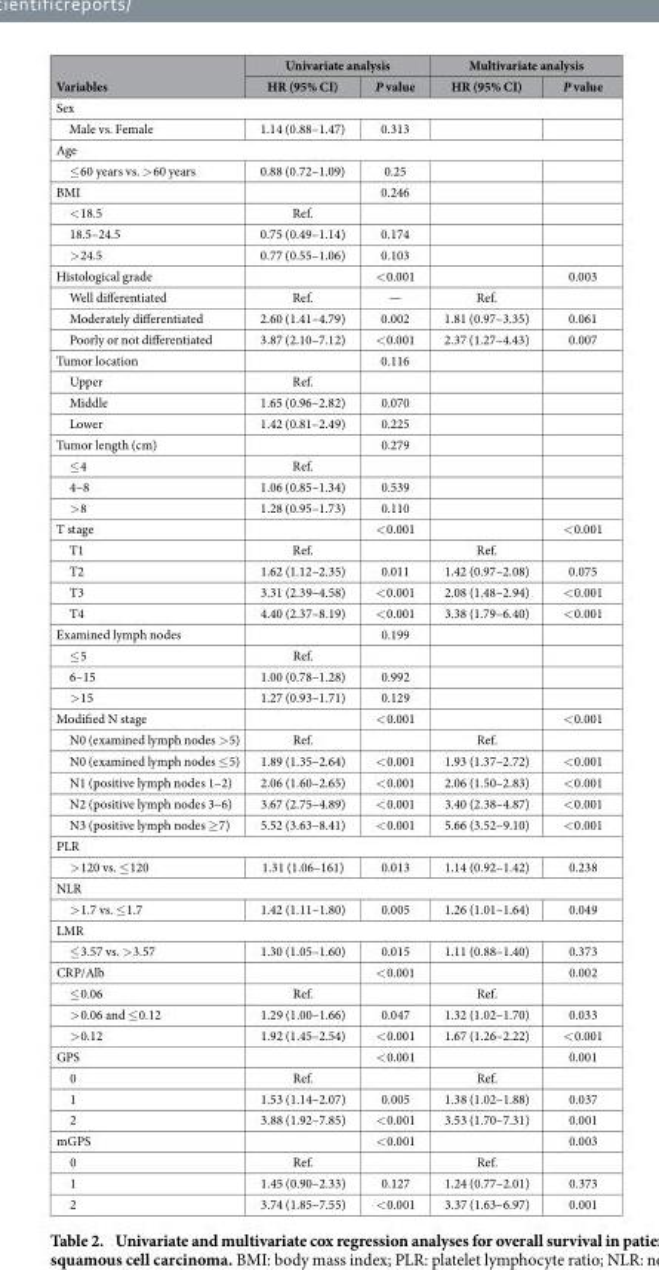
<table><thead><tr><td rowspan="2">Variables</td><td colspan="2">Univariate analysis</td><td colspan="2">Multivariate analysis</td></tr><tr><td>HR (95% CI)</td><td>P value</td><td>HR (95% CI)</td><td>P value</td></tr></thead><tbody><tr><td colspan="5">Sex</td></tr><tr><td>Male vs. Female</td><td>1.14 (0.88–1.47)</td><td>0.313</td><td></td><td></td></tr><tr><td colspan="5">Age</td></tr><tr><td>≤ 60 years vs. &gt; 60 years</td><td>0.88 (0.72–1.09)</td><td>0.25</td><td></td><td></td></tr><tr><td>BMI</td><td></td><td>0.246</td><td></td><td></td></tr><tr><td>&lt; 18.5</td><td>Ref.</td><td></td><td></td><td></td></tr><tr><td>18.5–24.5</td><td>0.75 (0.49–1.14)</td><td>0.174</td><td></td><td></td></tr><tr><td>&gt; 24.5</td><td>0.77 (0.55–1.06)</td><td>0.103</td><td></td><td></td></tr><tr><td>Histological grade</td><td></td><td>&lt; 0.001</td><td></td><td>0.003</td></tr><tr><td>Well differentiated</td><td>Ref.</td><td>—</td><td>Ref.</td><td></td></tr><tr><td>Moderately differentiated</td><td>2.60 (1.41–4.79)</td><td>0.002</td><td>1.81 (0.97–3.35)</td><td>0.061</td></tr><tr><td>Poorly or not differentiated</td><td>3.87 (2.10–7.12)</td><td>&lt; 0.001</td><td>2.37 (1.27–4.43)</td><td>0.007</td></tr><tr><td>Tumor location</td><td></td><td>0.116</td><td></td><td></td></tr><tr><td>Upper</td><td>Ref.</td><td></td><td></td><td></td></tr><tr><td>Middle</td><td>1.65 (0.96–2.82)</td><td>0.070</td><td></td><td></td></tr><tr><td>Lower</td><td>1.42 (0.81–2.49)</td><td>0.225</td><td></td><td></td></tr><tr><td>Tumor length (cm)</td><td></td><td>0.279</td><td></td><td></td></tr><tr><td>≤ 4</td><td>Ref.</td><td></td><td></td><td></td></tr><tr><td>4–8</td><td>1.06 (0.85–1.34)</td><td>0.539</td><td></td><td></td></tr><tr><td>&gt; 8</td><td>1.28 (0.95–1.73)</td><td>0.110</td><td></td><td></td></tr><tr><td>T stage</td><td></td><td>&lt; 0.001</td><td></td><td>&lt; 0.001</td></tr><tr><td>T1</td><td>Ref.</td><td></td><td>Ref.</td><td></td></tr><tr><td>T2</td><td>1.62 (1.12–2.35)</td><td>0.011</td><td>1.42 (0.97–2.08)</td><td>0.075</td></tr><tr><td>T3</td><td>3.31 (2.39–4.58)</td><td>&lt; 0.001</td><td>2.08 (1.48–2.94)</td><td>&lt; 0.001</td></tr><tr><td>T4</td><td>4.40 (2.37–8.19)</td><td>&lt; 0.001</td><td>3.38 (1.79–6.40)</td><td>&lt; 0.001</td></tr><tr><td>Examined lymph nodes</td><td></td><td>0.199</td><td></td><td></td></tr><tr><td>≤ 5</td><td>Ref.</td><td></td><td></td><td></td></tr><tr><td>6–15</td><td>1.00 (0.78–1.28)</td><td>0.992</td><td></td><td></td></tr><tr><td>&gt; 15</td><td>1.27 (0.93–1.71)</td><td>0.129</td><td></td><td></td></tr><tr><td>Modified N stage</td><td></td><td>&lt; 0.001</td><td></td><td>&lt; 0.001</td></tr><tr><td>N0 (examined lymph nodes &gt; 5)</td><td>Ref.</td><td></td><td>Ref.</td><td></td></tr><tr><td>N0 (examined lymph nodes ≤ 5)</td><td>1.89 (1.35–2.64)</td><td>&lt; 0.001</td><td>1.93 (1.37–2.72)</td><td>&lt; 0.001</td></tr><tr><td>N1 (positive lymph nodes 1–2)</td><td>2.06 (1.60–2.65)</td><td>&lt; 0.001</td><td>2.06 (1.50–2.83)</td><td>&lt; 0.001</td></tr><tr><td>N2 (positive lymph nodes 3–6)</td><td>3.67 (2.75–4.89)</td><td>&lt; 0.001</td><td>3.40 (2.38–4.87)</td><td>&lt; 0.001</td></tr><tr><td>N3 (positive lymph nodes ≥ 7)</td><td>5.52 (3.63–8.41)</td><td>&lt; 0.001</td><td>5.66 (3.52–9.10)</td><td>&lt; 0.001</td></tr><tr><td colspan="5">PLR</td></tr><tr><td>&gt; 120 vs. ≤ 120</td><td>1.31 (1.06–161)</td><td>0.013</td><td>1.14 (0.92–1.42)</td><td>0.238</td></tr><tr><td colspan="5">NLR</td></tr><tr><td>&gt; 1.7 vs. ≤ 1.7</td><td>1.42 (1.11–1.80)</td><td>0.005</td><td>1.26 (1.01–1.64)</td><td>0.049</td></tr><tr><td colspan="5">LMR</td></tr><tr><td>≤ 3.57 vs. &gt; 3.57</td><td>1.30 (1.05–1.60)</td><td>0.015</td><td>1.11 (0.88–1.40)</td><td>0.373</td></tr><tr><td>CRP/Alb</td><td></td><td>&lt; 0.001</td><td></td><td>0.002</td></tr><tr><td>≤ 0.06</td><td>Ref.</td><td></td><td>Ref.</td><td></td></tr><tr><td>&gt; 0.06 and ≤ 0.12</td><td>1.29 (1.00–1.66)</td><td>0.047</td><td>1.32 (1.02–1.70)</td><td>0.033</td></tr><tr><td>&gt; 0.12</td><td>1.92 (1.45–2.54)</td><td>&lt; 0.001</td><td>1.67 (1.26–2.22)</td><td>&lt; 0.001</td></tr><tr><td>GPS</td><td></td><td>&lt; 0.001</td><td></td><td>0.001</td></tr><tr><td>0</td><td>Ref.</td><td></td><td>Ref.</td><td></td></tr><tr><td>1</td><td>1.53 (1.14–2.07)</td><td>0.005</td><td>1.38 (1.02–1.88)</td><td>0.037</td></tr><tr><td>2</td><td>3.88 (1.92–7.85)</td><td>&lt; 0.001</td><td>3.53 (1.70–7.31)</td><td>0.001</td></tr><tr><td>mGPS</td><td></td><td>&lt; 0.001</td><td></td><td>0.003</td></tr><tr><td>0</td><td>Ref.</td><td></td><td>Ref.</td><td></td></tr><tr><td>1</td><td>1.45 (0.90–2.33)</td><td>0.127</td><td>1.24 (0.77–2.01)</td><td>0.373</td></tr><tr><td>2</td><td>3.74 (1.85–7.55)</td><td>&lt; 0.001</td><td>3.37 (1.63–6.97)</td><td>0.001</td></tr></tbody></table>